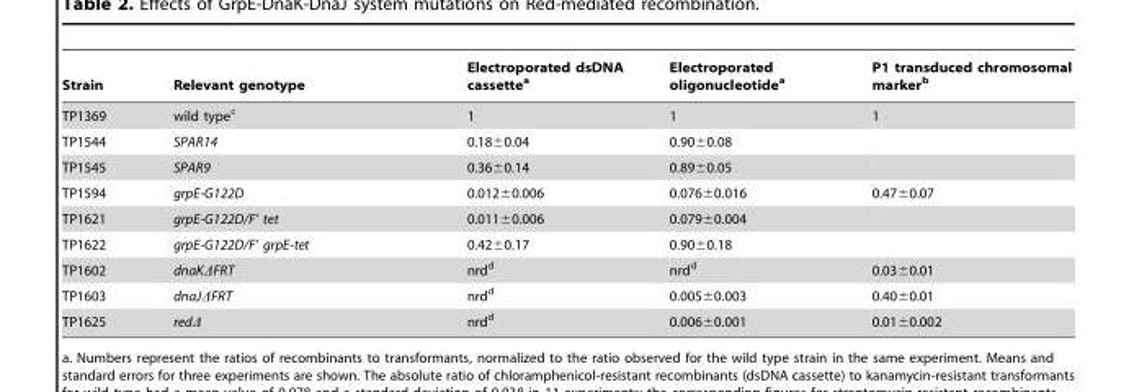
<table><thead><tr><td>Strain</td><td>Relevant genotype</td><td>Electroporated dsDNA cassette<sup>a</sup></td><td>Electroporated oligonucleotide<sup>a</sup></td><td>P1 transduced chromosomal marker<sup>b</sup></td></tr></thead><tbody><tr><td>TP1369</td><td>wild type<sup>c</sup></td><td>1</td><td>1</td><td>1</td></tr><tr><td>TP1544</td><td>SPAR14</td><td>0.18±0.04</td><td>0.90±0.08</td><td></td></tr><tr><td>TP1545</td><td>SPAR9</td><td>0.36±0.14</td><td>0.89±0.05</td><td></td></tr><tr><td>TP1594</td><td>grpE-G122D</td><td>0.012±0.006</td><td>0.076±0.016</td><td>0.47±0.07</td></tr><tr><td>TP1621</td><td>grpE-G122D/F’ tet</td><td>0.011±0.006</td><td>0.079±0.004</td><td></td></tr><tr><td>TP1622</td><td>grpE-G122D/F’ grpE-tet</td><td>0.42±0.17</td><td>0.90±0.18</td><td></td></tr><tr><td>TP1602</td><td>dnaKΔFRT</td><td>nrd<sup>d</sup></td><td>nrd<sup>d</sup></td><td>0.03±0.01</td></tr><tr><td>TP1603</td><td>dnaJΔFRT</td><td>nrd<sup>d</sup></td><td>0.005±0.003</td><td>0.40±0.01</td></tr><tr><td>TP1625</td><td>redΔ</td><td>nrd<sup>d</sup></td><td>0.006±0.001</td><td>0.01±0.002</td></tr></tbody></table>